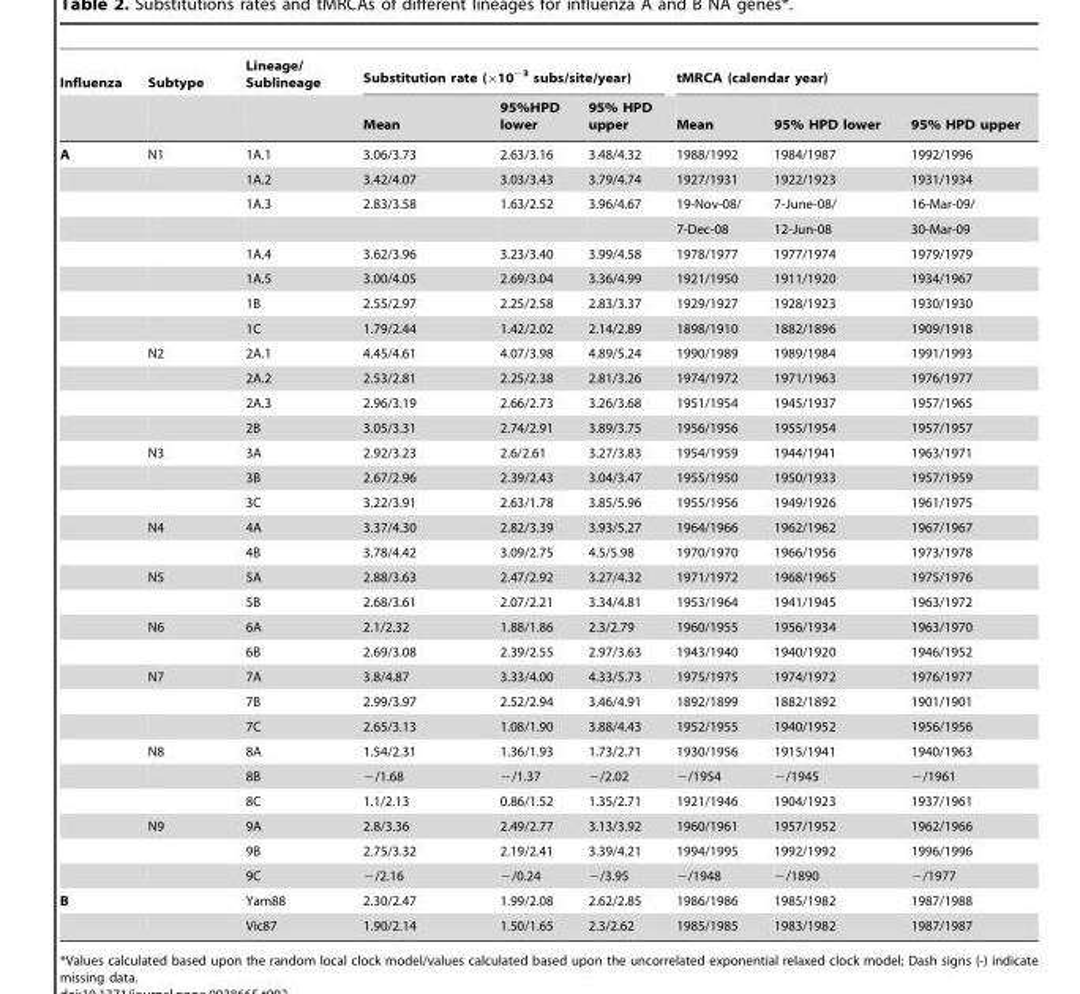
<table><thead><tr><td rowspan="2">Influenza</td><td rowspan="2">Subtype</td><td rowspan="2">Lineage/ Sublineage</td><td colspan="3">Substitution rate (×10<sup>−3</sup> subs/site/year)</td><td colspan="3">tMRCA (calendar year)</td></tr><tr><td>Mean</td><td>95%HPD lower</td><td>95% HPD upper</td><td>Mean</td><td>95% HPD lower</td><td>95% HPD upper</td></tr></thead><tbody><tr><td rowspan="30">A</td><td>N1</td><td>1A.1</td><td>3.06/3.73</td><td>2.63/3.16</td><td>3.48/4.32</td><td>1988/1992</td><td>1984/1987</td><td>1992/1996</td></tr><tr><td></td><td>1A.2</td><td>3.42/4.07</td><td>3.03/3.43</td><td>3.79/4.74</td><td>1927/1931</td><td>1922/1923</td><td>1931/1934</td></tr><tr><td></td><td>1A.3</td><td>2.83/3.58</td><td>1.63/2.52</td><td>3.96/4.67</td><td>19-Nov-08/</td><td>7-June-08/</td><td>16-Mar-09/</td></tr><tr><td></td><td></td><td></td><td></td><td></td><td>7-Dec-08</td><td>12-Jun-08</td><td>30-Mar-09</td></tr><tr><td></td><td>1A.4</td><td>3.62/3.96</td><td>3.23/3.40</td><td>3.99/4.58</td><td>1978/1977</td><td>1977/1974</td><td>1979/1979</td></tr><tr><td></td><td>1A.5</td><td>3.00/4.05</td><td>2.69/3.04</td><td>3.36/4.99</td><td>1921/1950</td><td>1911/1920</td><td>1934/1967</td></tr><tr><td></td><td>1B</td><td>2.55/2.97</td><td>2.25/2.58</td><td>2.83/3.37</td><td>1929/1927</td><td>1928/1923</td><td>1930/1930</td></tr><tr><td></td><td>1C</td><td>1.79/2.44</td><td>1.42/2.02</td><td>2.14/2.89</td><td>1898/1910</td><td>1882/1896</td><td>1909/1918</td></tr><tr><td>N2</td><td>2A.1</td><td>4.45/4.61</td><td>4.07/3.98</td><td>4.89/5.24</td><td>1990/1989</td><td>1989/1984</td><td>1991/1993</td></tr><tr><td></td><td>2A.2</td><td>2.53/2.81</td><td>2.25/2.38</td><td>2.81/3.26</td><td>1974/1972</td><td>1971/1963</td><td>1976/1977</td></tr><tr><td></td><td>2A.3</td><td>2.96/3.19</td><td>2.66/2.73</td><td>3.26/3.68</td><td>1951/1954</td><td>1945/1937</td><td>1957/1965</td></tr><tr><td></td><td>2B</td><td>3.05/3.31</td><td>2.74/2.91</td><td>3.89/3.75</td><td>1956/1956</td><td>1955/1954</td><td>1957/1957</td></tr><tr><td>N3</td><td>3A</td><td>2.92/3.23</td><td>2.6/2.61</td><td>3.27/3.83</td><td>1954/1959</td><td>1944/1941</td><td>1963/1971</td></tr><tr><td></td><td>3B</td><td>2.67/2.96</td><td>2.39/2.43</td><td>3.04/3.47</td><td>1955/1950</td><td>1950/1933</td><td>1957/1959</td></tr><tr><td></td><td>3C</td><td>3.22/3.91</td><td>2.63/1.78</td><td>3.85/5.96</td><td>1955/1956</td><td>1949/1926</td><td>1961/1975</td></tr><tr><td>N4</td><td>4A</td><td>3.37/4.30</td><td>2.82/3.39</td><td>3.93/5.27</td><td>1964/1966</td><td>1962/1962</td><td>1967/1967</td></tr><tr><td></td><td>4B</td><td>3.78/4.42</td><td>3.09/2.75</td><td>4.5/5.98</td><td>1970/1970</td><td>1966/1956</td><td>1973/1978</td></tr><tr><td>N5</td><td>5A</td><td>2.88/3.63</td><td>2.47/2.92</td><td>3.27/4.32</td><td>1971/1972</td><td>1968/1965</td><td>1975/1976</td></tr><tr><td></td><td>5B</td><td>2.68/3.61</td><td>2.07/2.21</td><td>3.34/4.81</td><td>1953/1964</td><td>1941/1945</td><td>1963/1972</td></tr><tr><td>N6</td><td>6A</td><td>2.1/2.32</td><td>1.88/1.86</td><td>2.3/2.79</td><td>1960/1955</td><td>1956/1934</td><td>1963/1970</td></tr><tr><td></td><td>6B</td><td>2.69/3.08</td><td>2.39/2.55</td><td>2.97/3.63</td><td>1943/1940</td><td>1940/1920</td><td>1946/1952</td></tr><tr><td>N7</td><td>7A</td><td>3.8/4.87</td><td>3.33/4.00</td><td>4.33/5.73</td><td>1975/1975</td><td>1974/1972</td><td>1976/1977</td></tr><tr><td></td><td>7B</td><td>2.99/3.97</td><td>2.52/2.94</td><td>3.46/4.91</td><td>1892/1899</td><td>1882/1892</td><td>1901/1901</td></tr><tr><td></td><td>7C</td><td>2.65/3.13</td><td>1.08/1.90</td><td>3.88/4.43</td><td>1952/1955</td><td>1940/1952</td><td>1956/1956</td></tr><tr><td>N8</td><td>8A</td><td>1.54/2.31</td><td>1.36/1.93</td><td>1.73/2.71</td><td>1930/1956</td><td>1915/1941</td><td>1940/1963</td></tr><tr><td></td><td>8B</td><td>−/1.68</td><td>−/1.37</td><td>−/2.02</td><td>−/1954</td><td>−/1945</td><td>−/1961</td></tr><tr><td></td><td>8C</td><td>1.1/2.13</td><td>0.86/1.52</td><td>1.35/2.71</td><td>1921/1946</td><td>1904/1923</td><td>1937/1961</td></tr><tr><td>N9</td><td>9A</td><td>2.8/3.36</td><td>2.49/2.77</td><td>3.13/3.92</td><td>1960/1961</td><td>1957/1952</td><td>1962/1966</td></tr><tr><td></td><td>9B</td><td>2.75/3.32</td><td>2.19/2.41</td><td>3.39/4.21</td><td>1994/1995</td><td>1992/1992</td><td>1996/1996</td></tr><tr><td></td><td>9C</td><td>−/2.16</td><td>−/0.24</td><td>−/3.95</td><td>−/1948</td><td>−/1890</td><td>−/1977</td></tr><tr><td rowspan="2">B</td><td></td><td>Yam88</td><td>2.30/2.47</td><td>1.99/2.08</td><td>2.62/2.85</td><td>1986/1986</td><td>1985/1982</td><td>1987/1988</td></tr><tr><td></td><td>Vic87</td><td>1.90/2.14</td><td>1.50/1.65</td><td>2.3/2.62</td><td>1985/1985</td><td>1983/1982</td><td>1987/1987</td></tr></tbody></table>